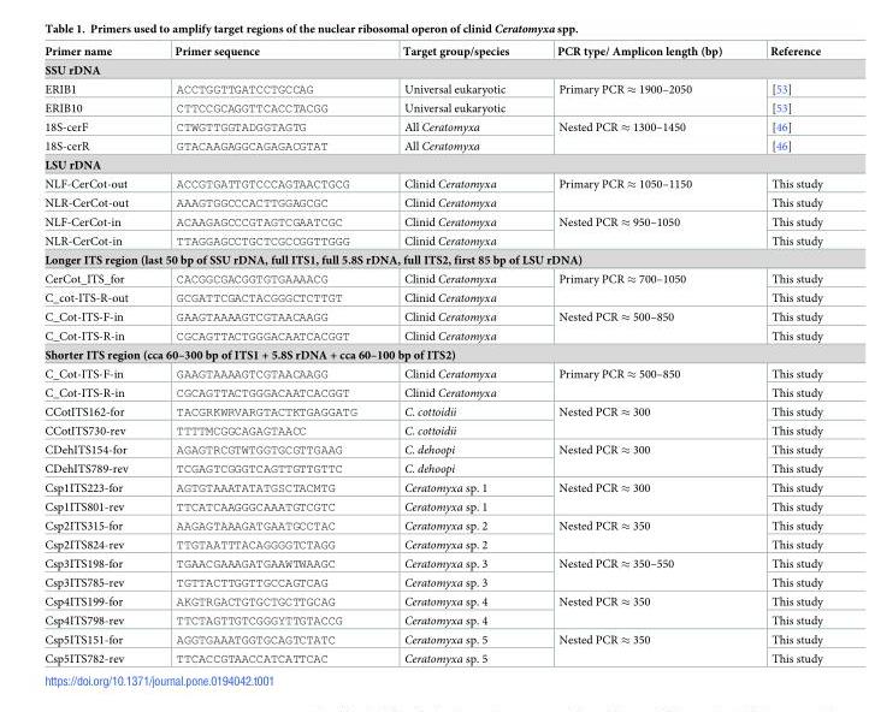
<table><thead><tr><td>Primer name</td><td>Primer sequence</td><td>Target group/species</td><td>PCR type/ Amplicon length (bp)</td><td>Reference</td></tr></thead><tbody><tr><td colspan="5">SSU rDNA</td></tr><tr><td>ERIB1</td><td>ACCTGGTTGATCCTGCCAG</td><td>Universal eukaryotic</td><td rowspan="2">Primary PCR ≈ 1900–2050</td><td>[53]</td></tr><tr><td>ERIB10</td><td>CTTCCGCAGGTTCACCTACGG</td><td>Universal eukaryotic</td><td>[53]</td></tr><tr><td>18S-cerF</td><td>CTWGTTGGTADGGTAGTG</td><td>All Ceratomyxa</td><td rowspan="2">Nested PCR ≈ 1300–1450</td><td>[46]</td></tr><tr><td>18S-cerR</td><td>GTACAAGAGGCAGAGACGTAT</td><td>All Ceratomyxa</td><td>[46]</td></tr><tr><td colspan="5">LSU rDNA</td></tr><tr><td>NLF-CerCot-out</td><td>ACCGTGATTGTCCCAGTAACTGCG</td><td>Clinid Ceratomyxa</td><td rowspan="2">Primary PCR ≈ 1050–1150</td><td>This study</td></tr><tr><td>NLR-CerCot-out</td><td>AAAGTGGCCCACTTGGAGCGC</td><td>Clinid Ceratomyxa</td><td>This study</td></tr><tr><td>NLF-CerCot-in</td><td>ACAAGAGCCCGTAGTCGAATCGC</td><td>Clinid Ceratomyxa</td><td rowspan="2">Nested PCR ≈ 950–1050</td><td>This study</td></tr><tr><td>NLR-CerCot-in</td><td>TTAGGAGCCTGCTCGCCGGTTGGG</td><td>Clinid Ceratomyxa</td><td>This study</td></tr><tr><td colspan="5">Longer ITS region (last 50 bp of SSU rDNA, full ITS1, full 5.8S rDNA, full ITS2, first 85 bp of LSU rDNA)</td></tr><tr><td>CerCot_ITS_for</td><td>CACGGCGACGGTGTGAAAACG</td><td>Clinid Ceratomyxa</td><td rowspan="2">Primary PCR ≈ 700–1050</td><td>This study</td></tr><tr><td>C_cot-ITS-R-out</td><td>GCGATTCGACTACGGGCTCTTGT</td><td>Clinid Ceratomyxa</td><td>This study</td></tr><tr><td>C_Cot-ITS-F-in</td><td>GAAGTAAAAGTCGTAACAAGG</td><td>Clinid Ceratomyxa</td><td rowspan="2">Nested PCR ≈ 500–850</td><td>This study</td></tr><tr><td>C_Cot-ITS-R-in</td><td>CGCAGTTACTGGGACAATCACGGT</td><td>Clinid Ceratomyxa</td><td>This study</td></tr><tr><td colspan="5">Shorter ITS region (cca 60–300 bp of ITS1 + 5.8S rDNA + cca 60–100 bp of ITS2)</td></tr><tr><td>C_Cot-ITS-F-in</td><td>GAAGTAAAAGTCGTAACAAGG</td><td>Clinid Ceratomyxa</td><td rowspan="2">Primary PCR ≈ 500–850</td><td>This study</td></tr><tr><td>C_Cot-ITS-R-in</td><td>CGCAGTTACTGGGACAATCACGGT</td><td>Clinid Ceratomyxa</td><td>This study</td></tr><tr><td>CCotITS162-for</td><td>TACGRKWRVARGTACTKTGAGGATG</td><td>C. cottoidii</td><td rowspan="2">Nested PCR ≈ 300</td><td>This study</td></tr><tr><td>CCotITS730-rev</td><td>TTTTMCGGCAGAGTAACC</td><td>C. cottoidii</td><td>This study</td></tr><tr><td>CDehITS154-for</td><td>AGAGTRCGTWTGGTGCGTTGAAG</td><td>C. dehoopi</td><td rowspan="2">Nested PCR ≈ 300</td><td>This study</td></tr><tr><td>CDehITS789-rev</td><td>TCGAGTCGGGTCAGTTGTTGTTC</td><td>C. dehoopi</td><td>This study</td></tr><tr><td>Csp1ITS223-for</td><td>AGTGTAAATATATGSCTACMTG</td><td>Ceratomyxa sp. 1</td><td rowspan="2">Nested PCR ≈ 300</td><td>This study</td></tr><tr><td>Csp1ITS801-rev</td><td>TTCATCAAGGGCAAATGTCGTC</td><td>Ceratomyxa sp. 1</td><td>This study</td></tr><tr><td>Csp2ITS315-for</td><td>AAGAGTAAAGATGAATGCCTAC</td><td>Ceratomyxa sp. 2</td><td rowspan="2">Nested PCR ≈ 350</td><td>This study</td></tr><tr><td>Csp2ITS824-rev</td><td>TTGTAATTTACAGGGGTCTAGG</td><td>Ceratomyxa sp. 2</td><td>This study</td></tr><tr><td>Csp3ITS198-for</td><td>TGAACGAAAGATGAAWTWAAGC</td><td>Ceratomyxa sp. 3</td><td rowspan="2">Nested PCR ≈ 350–550</td><td>This study</td></tr><tr><td>Csp3ITS785-rev</td><td>TGTTACTTGGTTGCCAGTCAG</td><td>Ceratomyxa sp. 3</td><td>This study</td></tr><tr><td>Csp4ITS199-for</td><td>AKGTRGACTGTGCTGCTTGCAG</td><td>Ceratomyxa sp. 4</td><td rowspan="2">Nested PCR ≈ 350</td><td>This study</td></tr><tr><td>Csp4ITS798-rev</td><td>TTCTAGTTGTCGGGYTTGTACCG</td><td>Ceratomyxa sp. 4</td><td>This study</td></tr><tr><td>Csp5ITS151-for</td><td>AGGTGAAATGGTGCAGTCTATC</td><td>Ceratomyxa sp. 5</td><td rowspan="2">Nested PCR ≈ 350</td><td>This study</td></tr><tr><td>Csp5ITS782-rev</td><td>TTCACCGTAACCATCATTCAC</td><td>Ceratomyxa sp. 5</td><td>This study</td></tr></tbody></table>